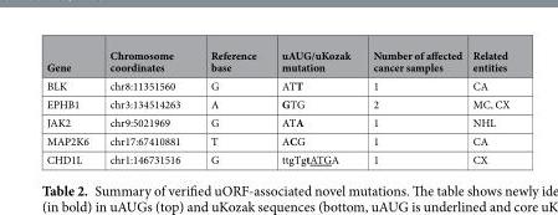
<table><thead><tr><td>Gene</td><td>Chromosome coordinates</td><td>Reference base</td><td>uAUG/uKozak mutation</td><td>Number of affected cancer samples</td><td>Related entities</td></tr></thead><tbody><tr><td>BLK</td><td>chr8:11351560</td><td>G</td><td>ATT</td><td>1</td><td>CA</td></tr><tr><td>EPHB1</td><td>chr3:134514263</td><td>A</td><td>GTG</td><td>2</td><td>MC, CX</td></tr><tr><td>JAK2</td><td>chr9:5021969</td><td>G</td><td>ATA</td><td>1</td><td>NHL</td></tr><tr><td>MAP2K6</td><td>chr17:67410881</td><td>T</td><td>ACG</td><td>1</td><td>CA</td></tr><tr><td>CHD1L</td><td>chr1:146731516</td><td>G</td><td>ttgTgtATGA</td><td>1</td><td>CX</td></tr></tbody></table>